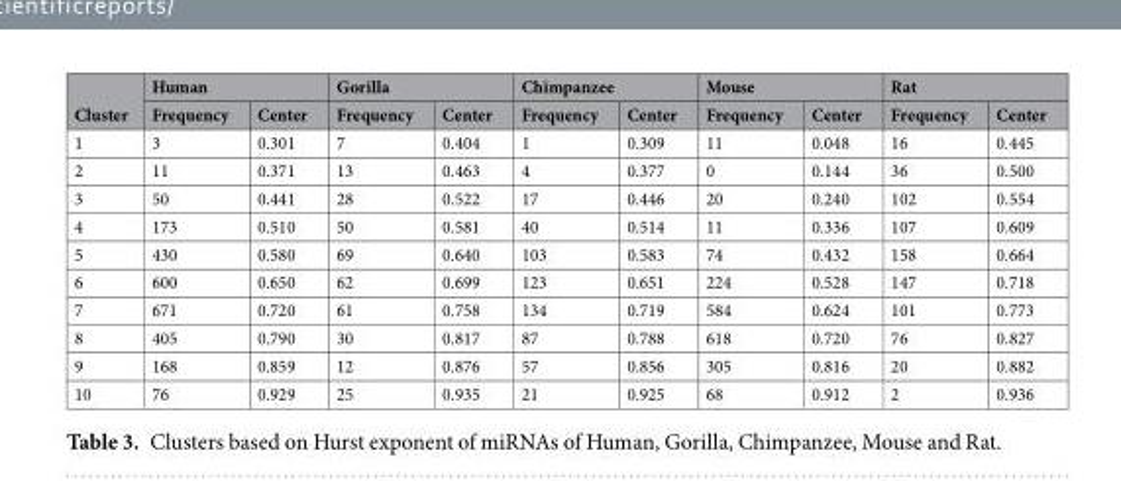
<table><thead><tr><td rowspan="2">Cluster</td><td colspan="2">Human</td><td colspan="2">Gorilla</td><td colspan="2">Chimpanzee</td><td colspan="2">Mouse</td><td colspan="2">Rat</td></tr><tr><td>Frequency</td><td>Center</td><td>Frequency</td><td>Center</td><td>Frequency</td><td>Center</td><td>Frequency</td><td>Center</td><td>Frequency</td><td>Center</td></tr></thead><tbody><tr><td>1</td><td>3</td><td>0.301</td><td>7</td><td>0.404</td><td>1</td><td>0.309</td><td>11</td><td>0.048</td><td>16</td><td>0.445</td></tr><tr><td>2</td><td>11</td><td>0.371</td><td>13</td><td>0.463</td><td>4</td><td>0.377</td><td>0</td><td>0.144</td><td>36</td><td>0.500</td></tr><tr><td>3</td><td>50</td><td>0.441</td><td>28</td><td>0.522</td><td>17</td><td>0.446</td><td>20</td><td>0.240</td><td>102</td><td>0.554</td></tr><tr><td>4</td><td>173</td><td>0.510</td><td>50</td><td>0.581</td><td>40</td><td>0.514</td><td>11</td><td>0.336</td><td>107</td><td>0.609</td></tr><tr><td>5</td><td>430</td><td>0.580</td><td>69</td><td>0.640</td><td>103</td><td>0.583</td><td>74</td><td>0.432</td><td>158</td><td>0.664</td></tr><tr><td>6</td><td>600</td><td>0.650</td><td>62</td><td>0.699</td><td>123</td><td>0.651</td><td>224</td><td>0.528</td><td>147</td><td>0.718</td></tr><tr><td>7</td><td>671</td><td>0.720</td><td>61</td><td>0.758</td><td>134</td><td>0.719</td><td>584</td><td>0.624</td><td>101</td><td>0.773</td></tr><tr><td>8</td><td>405</td><td>0.790</td><td>30</td><td>0.817</td><td>87</td><td>0.788</td><td>618</td><td>0.720</td><td>76</td><td>0.827</td></tr><tr><td>9</td><td>168</td><td>0.859</td><td>12</td><td>0.876</td><td>57</td><td>0.856</td><td>305</td><td>0.816</td><td>20</td><td>0.882</td></tr><tr><td>10</td><td>76</td><td>0.929</td><td>25</td><td>0.935</td><td>21</td><td>0.925</td><td>68</td><td>0.912</td><td>2</td><td>0.936</td></tr></tbody></table>